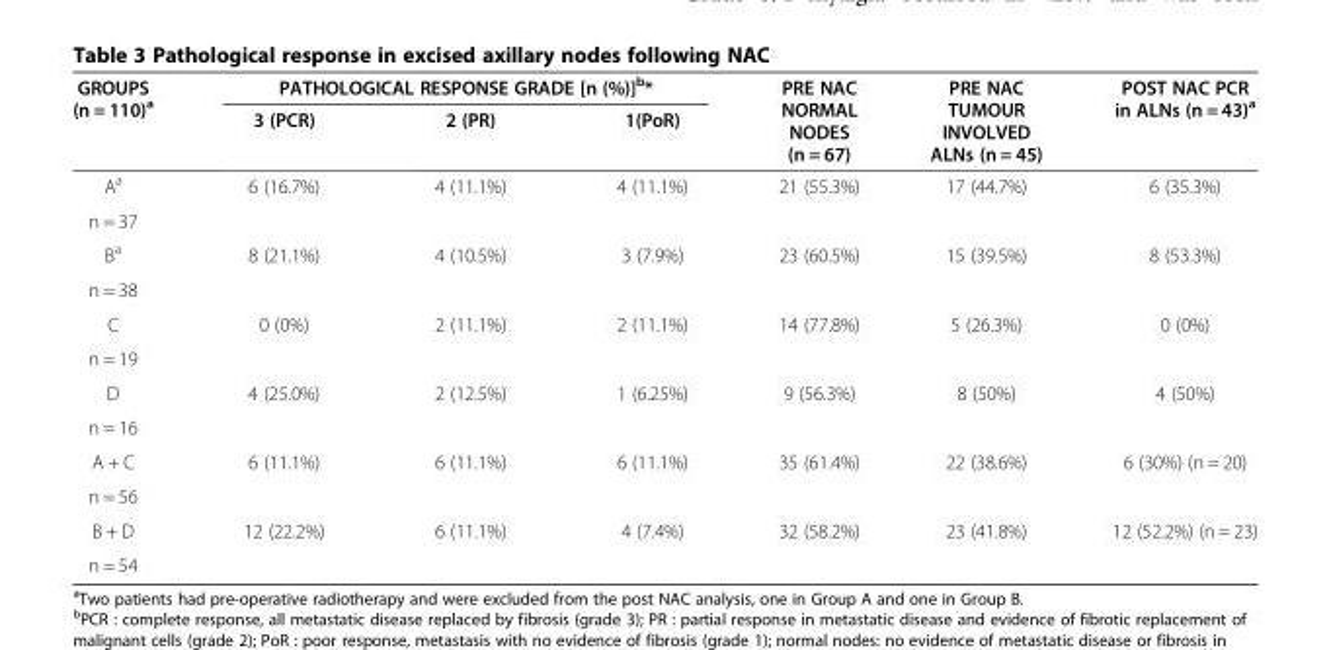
<table><thead><tr><td rowspan="2">GROUPS (n = 110)<sup>a</sup></td><td colspan="3">PATHOLOGICAL RESPONSE GRADE [n (%)]<sup>b</sup>*</td><td rowspan="2">PRE NAC NORMAL NODES (n = 67)</td><td rowspan="2">PRE NAC TUMOUR INVOLVED ALNs (n = 45)</td><td rowspan="2">POST NAC PCR in ALNs (n = 43)<sup>a</sup></td></tr><tr><td>3 (PCR)</td><td>2 (PR)</td><td>1(PoR)</td></tr></thead><tbody><tr><td>A<sup>a</sup></td><td rowspan="2">6 (16.7%)</td><td rowspan="2">4 (11.1%)</td><td rowspan="2">4 (11.1%)</td><td rowspan="2">21 (55.3%)</td><td rowspan="2">17 (44.7%)</td><td rowspan="2">6 (35.3%)</td></tr><tr><td>n = 37</td></tr><tr><td>B<sup>a</sup></td><td rowspan="2">8 (21.1%)</td><td rowspan="2">4 (10.5%)</td><td rowspan="2">3 (7.9%)</td><td rowspan="2">23 (60.5%)</td><td rowspan="2">15 (39.5%)</td><td rowspan="2">8 (53.3%)</td></tr><tr><td>n = 38</td></tr><tr><td>C</td><td rowspan="2">0 (0%)</td><td rowspan="2">2 (11.1%)</td><td rowspan="2">2 (11.1%)</td><td rowspan="2">14 (77.8%)</td><td rowspan="2">5 (26.3%)</td><td rowspan="2">0 (0%)</td></tr><tr><td>n = 19</td></tr><tr><td>D</td><td rowspan="2">4 (25.0%)</td><td rowspan="2">2 (12.5%)</td><td rowspan="2">1 (6.25%)</td><td rowspan="2">9 (56.3%)</td><td rowspan="2">8 (50%)</td><td rowspan="2">4 (50%)</td></tr><tr><td>n = 16</td></tr><tr><td>A + C</td><td rowspan="2">6 (11.1%)</td><td rowspan="2">6 (11.1%)</td><td rowspan="2">6 (11.1%)</td><td rowspan="2">35 (61.4%)</td><td rowspan="2">22 (38.6%)</td><td rowspan="2">6 (30%) (n = 20)</td></tr><tr><td>n = 56</td></tr><tr><td>B + D</td><td rowspan="2">12 (22.2%)</td><td rowspan="2">6 (11.1%)</td><td rowspan="2">4 (7.4%)</td><td rowspan="2">32 (58.2%)</td><td rowspan="2">23 (41.8%)</td><td rowspan="2">12 (52.2%) (n = 23)</td></tr><tr><td>n = 54</td></tr></tbody></table>